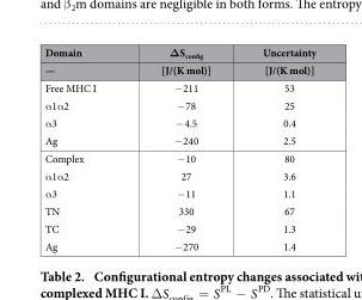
<table><thead><tr><td rowspan="2">Domain —</td><td rowspan="2">ΔS<sub>config</sub> [J/(K mol)]</td><td rowspan="2">Uncertainty [J/(K mol)]</td></tr><tr></tr></thead><tbody><tr><td>Free MHC I</td><td>− 211</td><td>53</td></tr><tr><td>α1α2</td><td>− 78</td><td>25</td></tr><tr><td>α3</td><td>− 4.5</td><td>0.4</td></tr><tr><td>Ag</td><td>− 240</td><td>2.5</td></tr><tr><td>Complex</td><td>− 10</td><td>80</td></tr><tr><td>α1α2</td><td>27</td><td>3.6</td></tr><tr><td>α3</td><td>− 11</td><td>1.1</td></tr><tr><td>TN</td><td>330</td><td>67</td></tr><tr><td>TC</td><td>− 29</td><td>1.3</td></tr><tr><td>Ag</td><td>− 270</td><td>1.4</td></tr></tbody></table>